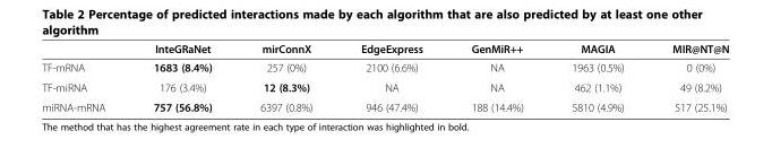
<table><thead><tr><td></td><td>InteGRaNet</td><td>mirConnX</td><td>EdgeExpress</td><td>GenMiR++</td><td>MAGIA</td><td>MIR@NT@N</td></tr></thead><tbody><tr><td>TF-mRNA</td><td>1683 (8.4%)</td><td>257 (0%)</td><td>2100 (6.6%)</td><td>NA</td><td>1963 (0.5%)</td><td>0 (0%)</td></tr><tr><td>TF-miRNA</td><td>176 (3.4%)</td><td>12 (8.3%)</td><td>NA</td><td>NA</td><td>462 (1.1%)</td><td>49 (8.2%)</td></tr><tr><td>miRNA-mRNA</td><td>757 (56.8%)</td><td>6397 (0.8%)</td><td>946 (47.4%)</td><td>188 (14.4%)</td><td>5810 (4.9%)</td><td>517 (25.1%)</td></tr></tbody></table>